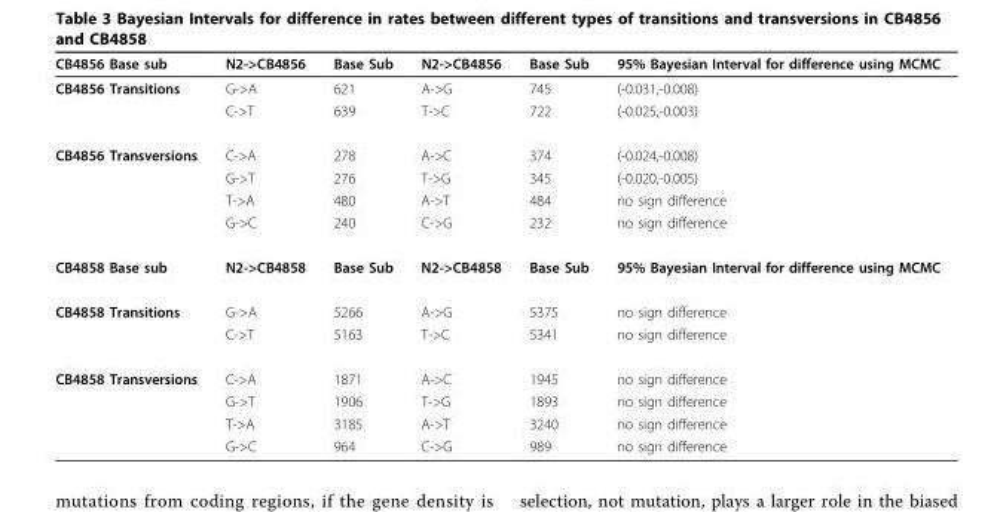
<table><thead><tr><td>CB4856 Base sub</td><td>N2-&gt;CB4856</td><td>Base Sub</td><td>N2-&gt;CB4856</td><td>Base Sub</td><td>95% Bayesian Interval for difference using MCMC</td></tr></thead><tbody><tr><td rowspan="2">CB4856 Transitions</td><td>G-&gt;A</td><td>621</td><td>A-&gt;G</td><td>745</td><td>(-0.031,-0.008)</td></tr><tr><td>C-&gt;T</td><td>639</td><td>T-&gt;C</td><td>722</td><td>(-0.025,-0.003)</td></tr><tr><td rowspan="4">CB4856 Transversions</td><td>C-&gt;A</td><td>278</td><td>A-&gt;C</td><td>374</td><td>(-0.024,-0.008)</td></tr><tr><td>G-&gt;T</td><td>276</td><td>T-&gt;G</td><td>345</td><td>(-0.020,-0.005)</td></tr><tr><td>T-&gt;A</td><td>480</td><td>A-&gt;T</td><td>484</td><td>no sign difference</td></tr><tr><td>G-&gt;C</td><td>240</td><td>C-&gt;G</td><td>232</td><td>no sign difference</td></tr><tr><td>CB4858 Base sub</td><td>N2-&gt;CB4858</td><td>Base Sub</td><td>N2-&gt;CB4858</td><td>Base Sub</td><td>95% Bayesian Interval for difference using MCMC</td></tr><tr><td rowspan="2">CB4858 Transitions</td><td>G-&gt;A</td><td>5266</td><td>A-&gt;G</td><td>5375</td><td>no sign difference</td></tr><tr><td>C-&gt;T</td><td>5163</td><td>T-&gt;C</td><td>5341</td><td>no sign difference</td></tr><tr><td rowspan="4">CB4858 Transversions</td><td>C-&gt;A</td><td>1871</td><td>A-&gt;C</td><td>1945</td><td>no sign difference</td></tr><tr><td>G-&gt;T</td><td>1906</td><td>T-&gt;G</td><td>1893</td><td>no sign difference</td></tr><tr><td>T-&gt;A</td><td>3185</td><td>A-&gt;T</td><td>3240</td><td>no sign difference</td></tr><tr><td>G-&gt;C</td><td>964</td><td>C-&gt;G</td><td>989</td><td>no sign difference</td></tr></tbody></table>